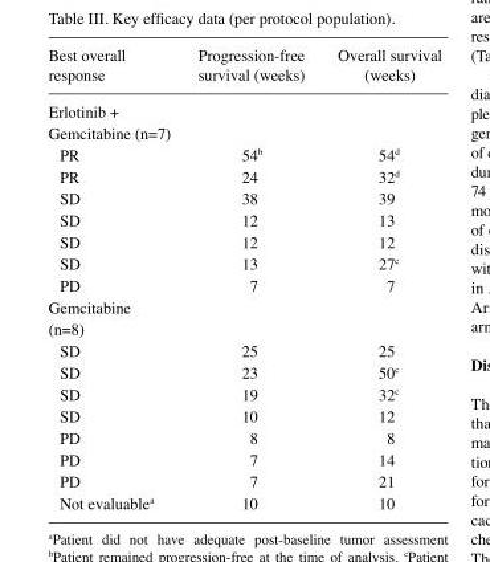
<table><thead><tr><td>Best overall response</td><td>Progression-free survival (weeks)</td><td>Overall survival (weeks)</td></tr></thead><tbody><tr><td colspan="3">Erlotinib + Gemcitabine (n=7)</td></tr><tr><td>PR</td><td>54<sup>b</sup></td><td>54<sup>d</sup></td></tr><tr><td>PR</td><td>24</td><td>32<sup>d</sup></td></tr><tr><td>SD</td><td>38</td><td>39</td></tr><tr><td>SD</td><td>12</td><td>13</td></tr><tr><td>SD</td><td>12</td><td>12</td></tr><tr><td>SD</td><td>13</td><td>27<sup>c</sup></td></tr><tr><td>PD</td><td>7</td><td>7</td></tr><tr><td colspan="3">Gemcitabine (n=8)</td></tr><tr><td>SD</td><td>25</td><td>25</td></tr><tr><td>SD</td><td>23</td><td>50<sup>c</sup></td></tr><tr><td>SD</td><td>19</td><td>32<sup>c</sup></td></tr><tr><td>SD</td><td>10</td><td>12</td></tr><tr><td>PD</td><td>8</td><td>8</td></tr><tr><td>PD</td><td>7</td><td>14</td></tr><tr><td>PD</td><td>7</td><td>21</td></tr><tr><td>Not evaluable<sup>a</sup></td><td>10</td><td>10</td></tr></tbody></table>